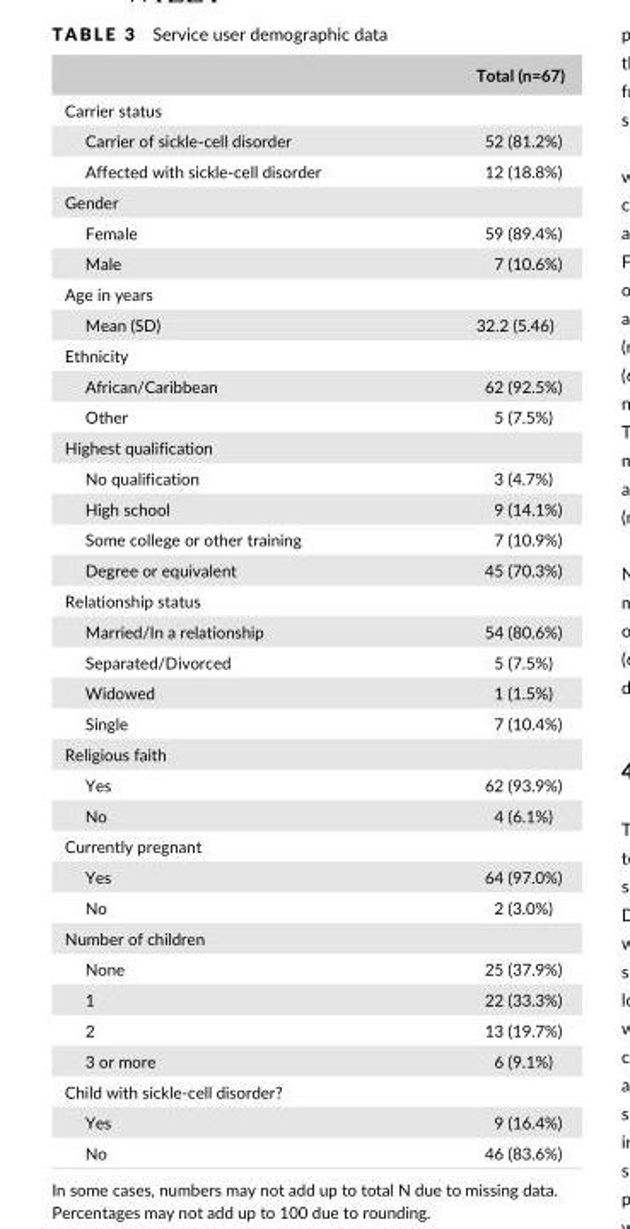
<table><thead><tr><td></td><td>Total (n=67)</td></tr></thead><tbody><tr><td colspan="2">Carrier status</td></tr><tr><td>Carrier of sickle- cell disorder</td><td>52 (81.2%)</td></tr><tr><td>Affected with sickle- cell disorder</td><td>12 (18.8%)</td></tr><tr><td colspan="2">Gender</td></tr><tr><td>Female</td><td>59 (89.4%)</td></tr><tr><td>Male</td><td>7 (10.6%)</td></tr><tr><td colspan="2">Age in years</td></tr><tr><td>Mean (SD)</td><td>32.2 (5.46)</td></tr><tr><td colspan="2">Ethnicity</td></tr><tr><td>African/Caribbean</td><td>62 (92.5%)</td></tr><tr><td>Other</td><td>5 (7.5%)</td></tr><tr><td colspan="2">Highest qualification</td></tr><tr><td>No qualification</td><td>3 (4.7%)</td></tr><tr><td>High school</td><td>9 (14.1%)</td></tr><tr><td>Some college or other training</td><td>7 (10.9%)</td></tr><tr><td>Degree or equivalent</td><td>45 (70.3%)</td></tr><tr><td colspan="2">Relationship status</td></tr><tr><td>Married/In a relationship</td><td>54 (80.6%)</td></tr><tr><td>Separated/Divorced</td><td>5 (7.5%)</td></tr><tr><td>Widowed</td><td>1 (1.5%)</td></tr><tr><td>Single</td><td>7 (10.4%)</td></tr><tr><td colspan="2">Religious faith</td></tr><tr><td>Yes</td><td>62 (93.9%)</td></tr><tr><td>No</td><td>4 (6.1%)</td></tr><tr><td colspan="2">Currently pregnant</td></tr><tr><td>Yes</td><td>64 (97.0%)</td></tr><tr><td>No</td><td>2 (3.0%)</td></tr><tr><td colspan="2">Number of children</td></tr><tr><td>None</td><td>25 (37.9%)</td></tr><tr><td>1</td><td>22 (33.3%)</td></tr><tr><td>2</td><td>13 (19.7%)</td></tr><tr><td>3 or more</td><td>6 (9.1%)</td></tr><tr><td colspan="2">Child with sickle- cell disorder?</td></tr><tr><td>Yes</td><td>9 (16.4%)</td></tr><tr><td>No</td><td>46 (83.6%)</td></tr></tbody></table>